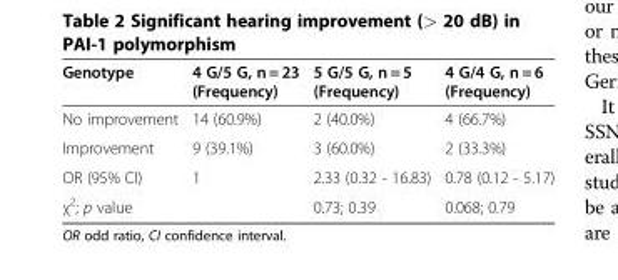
<table><thead><tr><td>Genotype</td><td>4 G/5 G, n = 23 (Frequency)</td><td>5 G/5 G, n = 5 (Frequency)</td><td>4 G/4 G, n = 6 (Frequency)</td></tr></thead><tbody><tr><td>No improvement</td><td>14 (60.9%)</td><td>2 (40.0%)</td><td>4 (66.7%)</td></tr><tr><td>Improvement</td><td>9 (39.1%)</td><td>3 (60.0%)</td><td>2 (33.3%)</td></tr><tr><td>OR (95% CI)</td><td>1</td><td>2.33 (0.32 - 16.83)</td><td>0.78 (0.12 - 5.17)</td></tr><tr><td>χ<sup>2</sup>; p value</td><td></td><td>0.73; 0.39</td><td>0.068; 0.79</td></tr></tbody></table>